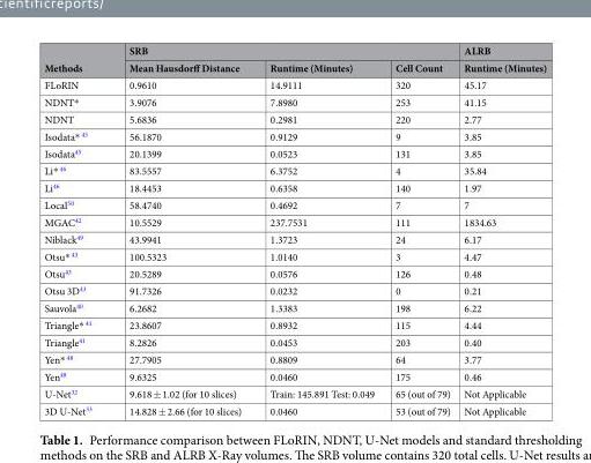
<table><thead><tr><td rowspan="2">Methods</td><td colspan="3">SRB</td><td rowspan="2">ALRB Runtime (Minutes)</td></tr><tr><td>Mean Hausdorff Distance</td><td>Runtime (Minutes)</td><td>Cell Count</td></tr></thead><tbody><tr><td>FLoRIN</td><td>0.9610</td><td>14.9111</td><td>320</td><td>45.17</td></tr><tr><td>NDNT*</td><td>3.9076</td><td>7.8980</td><td>253</td><td>41.15</td></tr><tr><td>NDNT</td><td>5.6836</td><td>0.2981</td><td>220</td><td>2.77</td></tr><tr><td>Isodata* <sup>45</sup></td><td>56.1870</td><td>0.9129</td><td>9</td><td>3.85</td></tr><tr><td>Isodata<sup>45</sup></td><td>20.1399</td><td>0.0523</td><td>131</td><td>3.85</td></tr><tr><td>Li* <sup>46</sup></td><td>83.5557</td><td>6.3752</td><td>4</td><td>35.84</td></tr><tr><td>Li<sup>46</sup></td><td>18.4453</td><td>0.6358</td><td>140</td><td>1.97</td></tr><tr><td>Local<sup>50</sup></td><td>58.4740</td><td>0.4692</td><td>7</td><td>7</td></tr><tr><td>MGAC<sup>42</sup></td><td>10.5529</td><td>237.7531</td><td>111</td><td>1834.63</td></tr><tr><td>Niblack<sup>49</sup></td><td>43.9941</td><td>1.3723</td><td>24</td><td>6.17</td></tr><tr><td>Otsu* <sup>43</sup></td><td>100.5323</td><td>1.0140</td><td>3</td><td>4.47</td></tr><tr><td>Otsu<sup>43</sup></td><td>20.5289</td><td>0.0576</td><td>126</td><td>0.48</td></tr><tr><td>Otsu 3D<sup>43</sup></td><td>91.7326</td><td>0.0232</td><td>0</td><td>0.21</td></tr><tr><td>Sauvola<sup>40</sup></td><td>6.2682</td><td>1.3383</td><td>198</td><td>6.22</td></tr><tr><td>Triangle* <sup>41</sup></td><td>23.8607</td><td>0.8932</td><td>115</td><td>4.44</td></tr><tr><td>Triangle<sup>41</sup></td><td>8.2826</td><td>0.0453</td><td>203</td><td>0.40</td></tr><tr><td>Yen* <sup>48</sup></td><td>27.7905</td><td>0.8809</td><td>64</td><td>3.77</td></tr><tr><td>Yen<sup>48</sup></td><td>9.6325</td><td>0.0460</td><td>175</td><td>0.46</td></tr><tr><td>U-Net<sup>32</sup></td><td>9.618 ± 1.02 (for 10 slices)</td><td>Train: 145.891 Test: 0.049</td><td>65 (out of 79)</td><td>Not Applicable</td></tr><tr><td>3D U-Net<sup>33</sup></td><td>14.828 ± 2.66 (for 10 slices)</td><td>0.0460</td><td>53 (out of 79)</td><td>Not Applicable</td></tr></tbody></table>